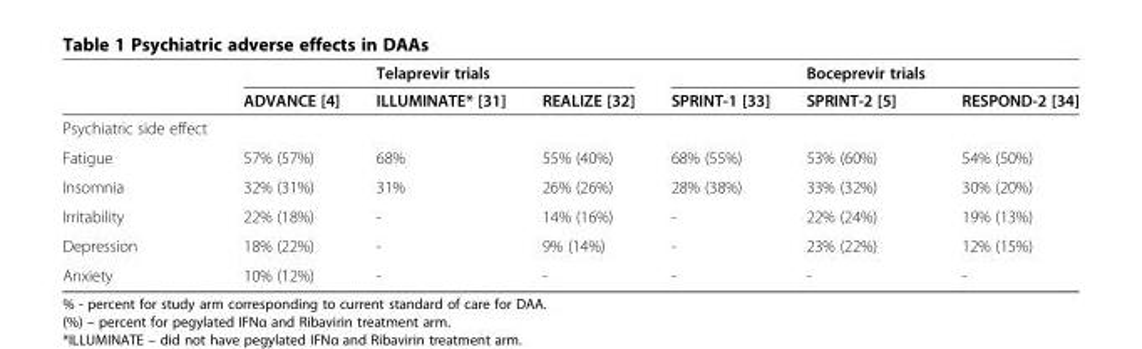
<table><thead><tr><td></td><td></td><td>Telaprevir trials</td><td></td><td></td><td>Boceprevir trials</td><td></td></tr></thead><tbody><tr><td></td><td>ADVANCE [4]</td><td>ILLUMINATE* [31]</td><td>REALIZE [32]</td><td>SPRINT-1 [33]</td><td>SPRINT-2 [5]</td><td>RESPOND-2 [34]</td></tr><tr><td colspan="7">Psychiatric side effect</td></tr><tr><td>Fatigue</td><td>57% (57%)</td><td>68%</td><td>55% (40%)</td><td>68% (55%)</td><td>53% (60%)</td><td>54% (50%)</td></tr><tr><td>Insomnia</td><td>32% (31%)</td><td>31%</td><td>26% (26%)</td><td>28% (38%)</td><td>33% (32%)</td><td>30% (20%)</td></tr><tr><td>Irritability</td><td>22% (18%)</td><td>-</td><td>14% (16%)</td><td>-</td><td>22% (24%)</td><td>19% (13%)</td></tr><tr><td>Depression</td><td>18% (22%)</td><td>-</td><td>9% (14%)</td><td>-</td><td>23% (22%)</td><td>12% (15%)</td></tr><tr><td>Anxiety</td><td>10% (12%)</td><td>-</td><td>-</td><td>-</td><td>-</td><td>-</td></tr></tbody></table>